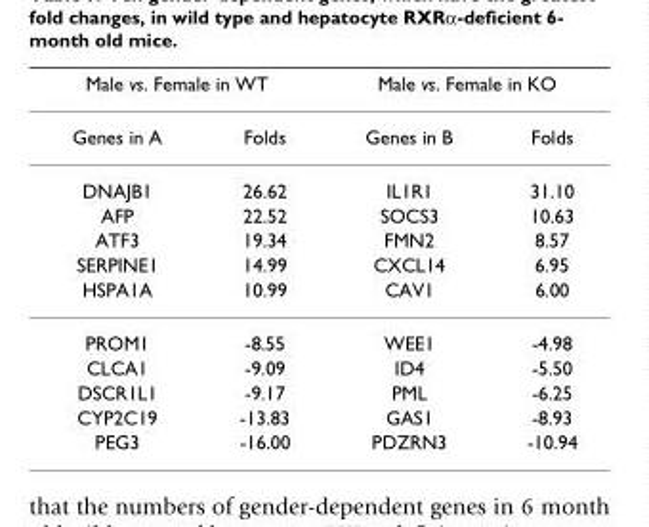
<table><thead><tr><td colspan="2">Male vs. Female in WT</td><td colspan="2">Male vs. Female in KO</td></tr><tr><td>Genes in A</td><td>Folds</td><td>Genes in B</td><td>Folds</td></tr></thead><tbody><tr><td>DNAJB1</td><td>26.62</td><td>IL1R1</td><td>31.10</td></tr><tr><td>AFP</td><td>22.52</td><td>SOCS3</td><td>10.63</td></tr><tr><td>ATF3</td><td>19.34</td><td>FMN2</td><td>8.57</td></tr><tr><td>SERPINE1</td><td>14.99</td><td>CXCL14</td><td>6.95</td></tr><tr><td>HSPA1A</td><td>10.99</td><td>CAV1</td><td>6.00</td></tr><tr><td>PROM1</td><td>-8.55</td><td>WEE1</td><td>-4.98</td></tr><tr><td>CLCA1</td><td>-9.09</td><td>ID4</td><td>-5.50</td></tr><tr><td>DSCR1L1</td><td>-9.17</td><td>PML</td><td>-6.25</td></tr><tr><td>CYP2C19</td><td>-13.83</td><td>GAS1</td><td>-8.93</td></tr><tr><td>PEG3</td><td>-16.00</td><td>PDZRN3</td><td>-10.94</td></tr></tbody></table>